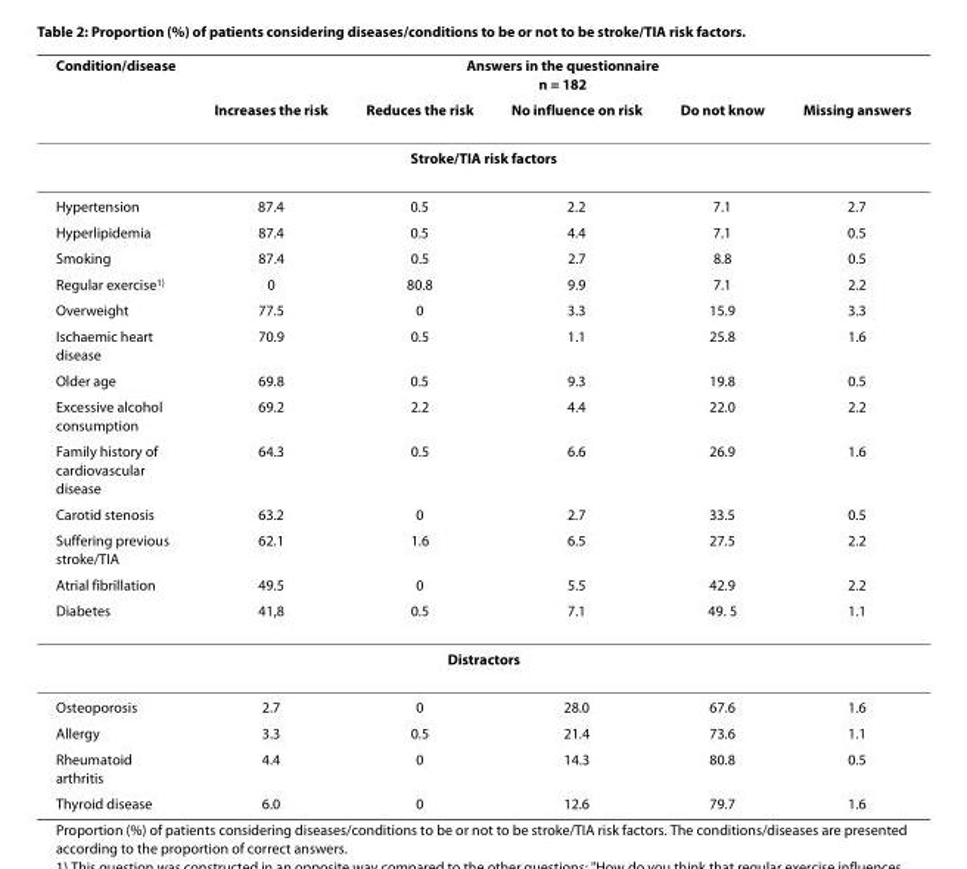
<table><thead><tr><td rowspan="2">Condition/disease</td><td colspan="5">Answers in the questionnaire n = 182</td></tr><tr><td>Increases the risk</td><td>Reduces the risk</td><td>No influence on risk</td><td>Do not know</td><td>Missing answers</td></tr></thead><tbody><tr><td colspan="6">Stroke/TIA risk factors</td></tr><tr><td>Hypertension</td><td>87.4</td><td>0.5</td><td>2.2</td><td>7.1</td><td>2.7</td></tr><tr><td>Hyperlipidemia</td><td>87.4</td><td>0.5</td><td>4.4</td><td>7.1</td><td>0.5</td></tr><tr><td>Smoking</td><td>87.4</td><td>0.5</td><td>2.7</td><td>8.8</td><td>0.5</td></tr><tr><td>Regular exercise<sup>1)</sup></td><td>0</td><td>80.8</td><td>9.9</td><td>7.1</td><td>2.2</td></tr><tr><td>Overweight</td><td>77.5</td><td>0</td><td>3.3</td><td>15.9</td><td>3.3</td></tr><tr><td>Ischaemic heart disease</td><td>70.9</td><td>0.5</td><td>1.1</td><td>25.8</td><td>1.6</td></tr><tr><td>Older age</td><td>69.8</td><td>0.5</td><td>9.3</td><td>19.8</td><td>0.5</td></tr><tr><td>Excessive alcohol consumption</td><td>69.2</td><td>2.2</td><td>4.4</td><td>22.0</td><td>2.2</td></tr><tr><td>Family history of cardiovascular disease</td><td>64.3</td><td>0.5</td><td>6.6</td><td>26.9</td><td>1.6</td></tr><tr><td>Carotid stenosis</td><td>63.2</td><td>0</td><td>2.7</td><td>33.5</td><td>0.5</td></tr><tr><td>Suffering previous stroke/TIA</td><td>62.1</td><td>1.6</td><td>6.5</td><td>27.5</td><td>2.2</td></tr><tr><td>Atrial fibrillation</td><td>49.5</td><td>0</td><td>5.5</td><td>42.9</td><td>2.2</td></tr><tr><td>Diabetes</td><td>41,8</td><td>0.5</td><td>7.1</td><td>49. 5</td><td>1.1</td></tr><tr><td colspan="6">Distractors</td></tr><tr><td>Osteoporosis</td><td>2.7</td><td>0</td><td>28.0</td><td>67.6</td><td>1.6</td></tr><tr><td>Allergy</td><td>3.3</td><td>0.5</td><td>21.4</td><td>73.6</td><td>1.1</td></tr><tr><td>Rheumatoid arthritis</td><td>4.4</td><td>0</td><td>14.3</td><td>80.8</td><td>0.5</td></tr><tr><td>Thyroid disease</td><td>6.0</td><td>0</td><td>12.6</td><td>79.7</td><td>1.6</td></tr></tbody></table>